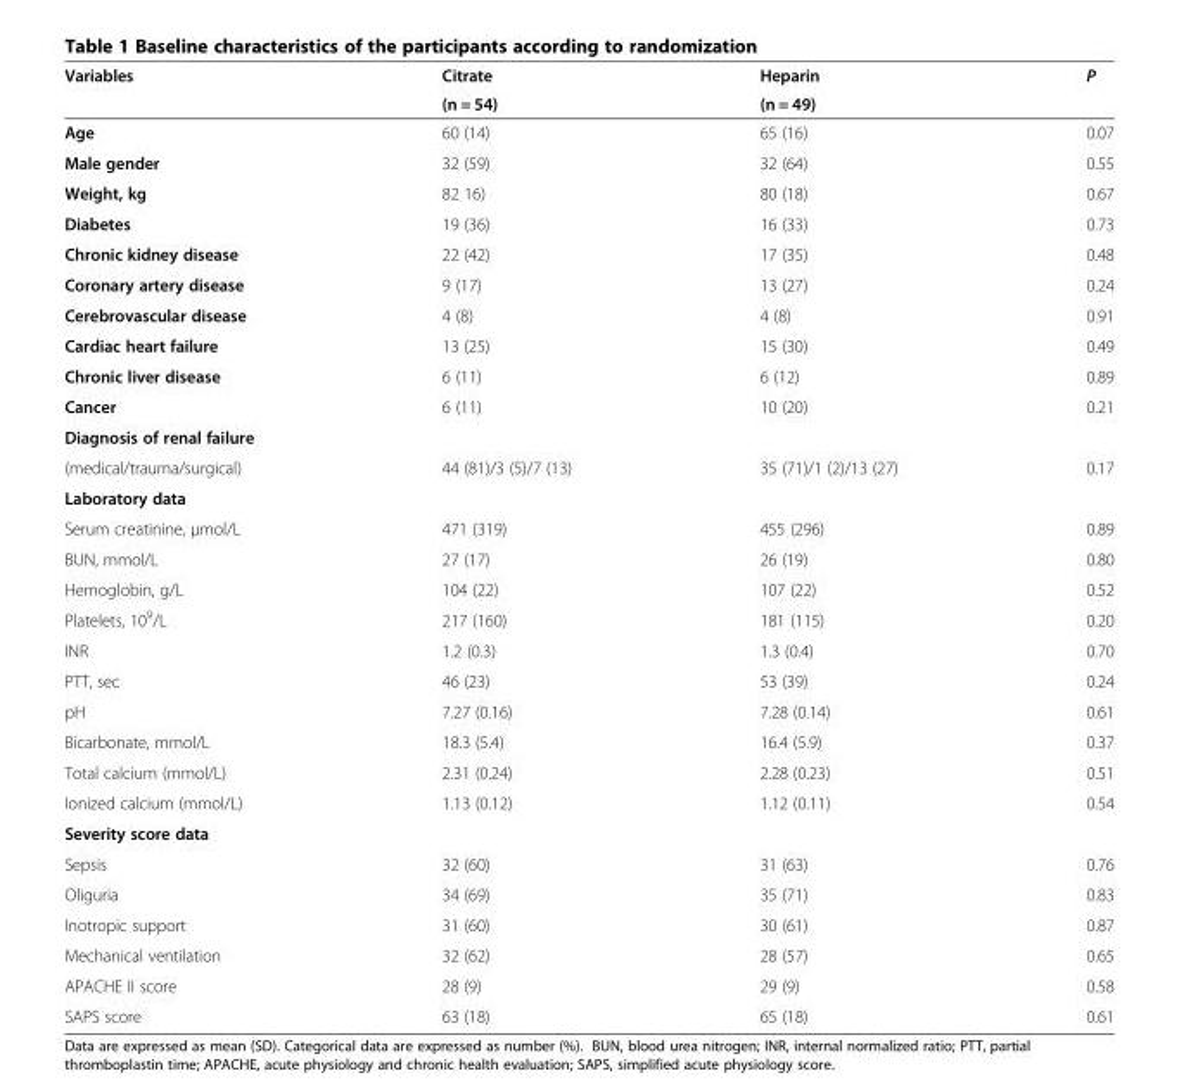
<table><thead><tr><td rowspan="2">Variables</td><td rowspan="2">Citrate (n = 54)</td><td rowspan="2">Heparin (n = 49)</td><td rowspan="2">P</td></tr><tr></tr></thead><tbody><tr><td>Age</td><td>60 (14)</td><td>65 (16)</td><td>0.07</td></tr><tr><td>Male gender</td><td>32 (59)</td><td>32 (64)</td><td>0.55</td></tr><tr><td>Weight, kg</td><td>82 16)</td><td>80 (18)</td><td>0.67</td></tr><tr><td>Diabetes</td><td>19 (36)</td><td>16 (33)</td><td>0.73</td></tr><tr><td>Chronic kidney disease</td><td>22 (42)</td><td>17 (35)</td><td>0.48</td></tr><tr><td>Coronary artery disease</td><td>9 (17)</td><td>13 (27)</td><td>0.24</td></tr><tr><td>Cerebrovascular disease</td><td>4 (8)</td><td>4 (8)</td><td>0.91</td></tr><tr><td>Cardiac heart failure</td><td>13 (25)</td><td>15 (30)</td><td>0.49</td></tr><tr><td>Chronic liver disease</td><td>6 (11)</td><td>6 (12)</td><td>0.89</td></tr><tr><td>Cancer</td><td>6 (11)</td><td>10 (20)</td><td>0.21</td></tr><tr><td colspan="4">Diagnosis of renal failure</td></tr><tr><td>(medical/trauma/surgical)</td><td>44 (81)/3 (5)/7 (13)</td><td>35 (71)/1 (2)/13 (27)</td><td>0.17</td></tr><tr><td colspan="4">Laboratory data</td></tr><tr><td>Serum creatinine, μmol/L</td><td>471 (319)</td><td>455 (296)</td><td>0.89</td></tr><tr><td>BUN, mmol/L</td><td>27 (17)</td><td>26 (19)</td><td>0.80</td></tr><tr><td>Hemoglobin, g/L</td><td>104 (22)</td><td>107 (22)</td><td>0.52</td></tr><tr><td>Platelets, 10<sup>9</sup>/L</td><td>217 (160)</td><td>181 (115)</td><td>0.20</td></tr><tr><td>INR</td><td>1.2 (0.3)</td><td>1.3 (0.4)</td><td>0.70</td></tr><tr><td>PTT, sec</td><td>46 (23)</td><td>53 (39)</td><td>0.24</td></tr><tr><td>pH</td><td>7.27 (0.16)</td><td>7.28 (0.14)</td><td>0.61</td></tr><tr><td>Bicarbonate, mmol/L</td><td>18.3 (5.4)</td><td>16.4 (5.9)</td><td>0.37</td></tr><tr><td>Total calcium (mmol/L)</td><td>2.31 (0.24)</td><td>2.28 (0.23)</td><td>0.51</td></tr><tr><td>Ionized calcium (mmol/L)</td><td>1.13 (0.12)</td><td>1.12 (0.11)</td><td>0.54</td></tr><tr><td colspan="4">Severity score data</td></tr><tr><td>Sepsis</td><td>32 (60)</td><td>31 (63)</td><td>0.76</td></tr><tr><td>Oliguria</td><td>34 (69)</td><td>35 (71)</td><td>0.83</td></tr><tr><td>Inotropic support</td><td>31 (60)</td><td>30 (61)</td><td>0.87</td></tr><tr><td>Mechanical ventilation</td><td>32 (62)</td><td>28 (57)</td><td>0.65</td></tr><tr><td>APACHE II score</td><td>28 (9)</td><td>29 (9)</td><td>0.58</td></tr><tr><td>SAPS score</td><td>63 (18)</td><td>65 (18)</td><td>0.61</td></tr></tbody></table>